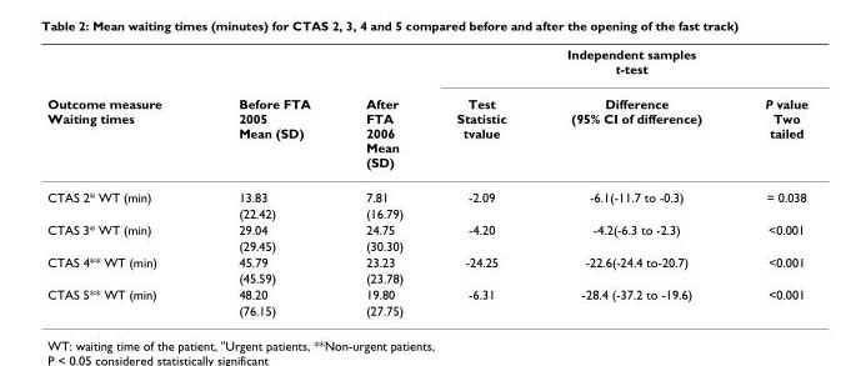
<table><thead><tr><td rowspan="2">Outcome measure Waiting times</td><td rowspan="2">Before FTA 2005 Mean (SD)</td><td rowspan="2">After FTA 2006 Mean (SD)</td><td colspan="3">Independent samples t-test</td></tr><tr><td>Test Statistic tvalue</td><td>Difference (95% CI of difference)</td><td>P value Two tailed</td></tr></thead><tbody><tr><td rowspan="2">CTAS 2* WT (min)</td><td>13.83</td><td>7.81</td><td>-2.09</td><td>-6.1(-11.7 to -0.3)</td><td>= 0.038</td></tr><tr><td>(22.42)</td><td>(16.79)</td><td></td><td></td><td></td></tr><tr><td rowspan="2">CTAS 3* WT (min)</td><td>29.04</td><td>24.75</td><td>-4.20</td><td>-4.2(-6.3 to -2.3)</td><td>&lt;0.001</td></tr><tr><td>(29.45)</td><td>(30.30)</td><td></td><td></td><td></td></tr><tr><td rowspan="2">CTAS 4** WT (min)</td><td>45.79</td><td>23.23</td><td>-24.25</td><td>-22.6(-24.4 to-20.7)</td><td>&lt;0.001</td></tr><tr><td>(45.59)</td><td>(23.78)</td><td></td><td></td><td></td></tr><tr><td rowspan="2">CTAS 5** WT (min)</td><td>48.20</td><td>19.80</td><td>-6.31</td><td>-28.4 (-37.2 to -19.6)</td><td>&lt;0.001</td></tr><tr><td>(76.15)</td><td>(27.75)</td><td></td><td></td><td></td></tr></tbody></table>